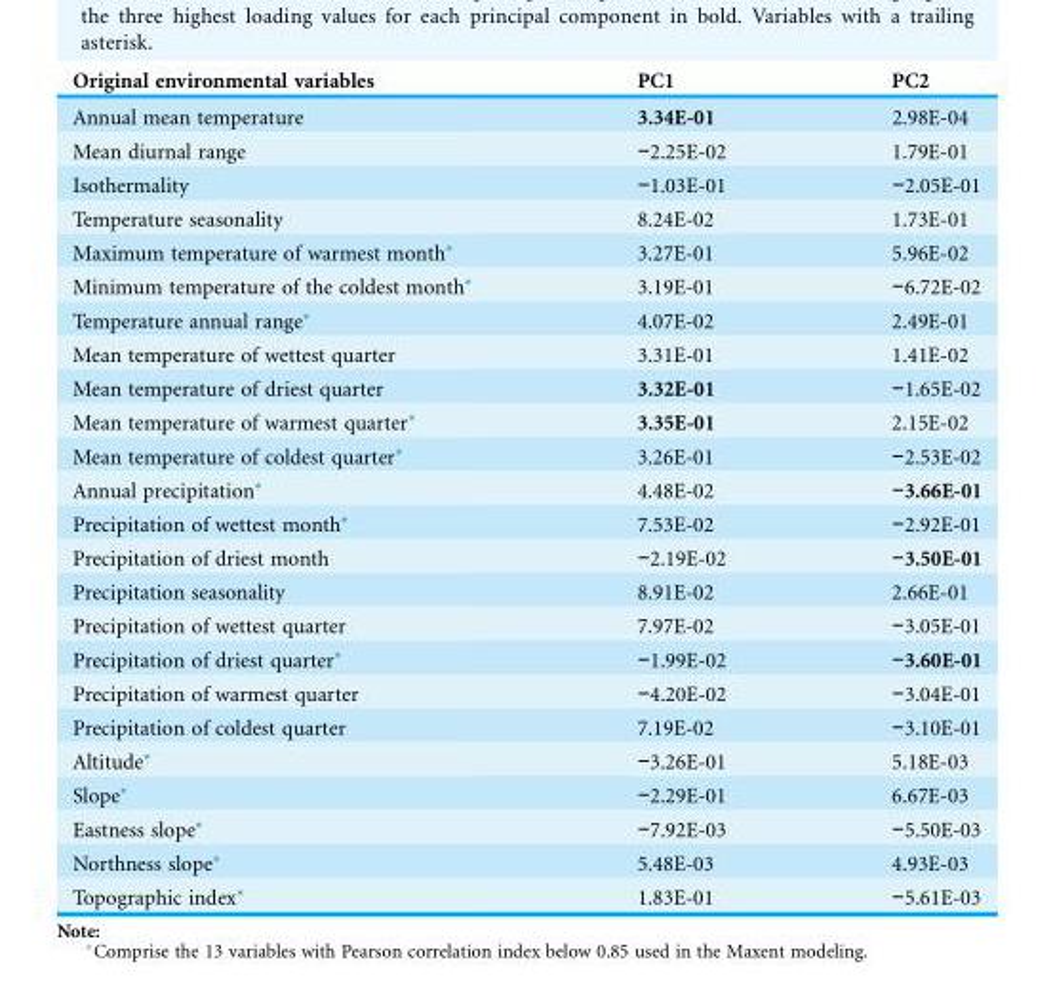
<table><thead><tr><td>Original environmental variables</td><td>PC1</td><td>PC2</td></tr></thead><tbody><tr><td>Annual mean temperature</td><td>3.34E-01</td><td>2.98E-04</td></tr><tr><td>Mean diurnal range</td><td>−2.25E-02</td><td>1.79E-01</td></tr><tr><td>Isothermality</td><td>−1.03E-01</td><td>−2.05E-01</td></tr><tr><td>Temperature seasonality</td><td>8.24E-02</td><td>1.73E-01</td></tr><tr><td>Maximum temperature of warmest month*</td><td>3.27E-01</td><td>5.96E-02</td></tr><tr><td>Minimum temperature of the coldest month*</td><td>3.19E-01</td><td>−6.72E-02</td></tr><tr><td>Temperature annual range*</td><td>4.07E-02</td><td>2.49E-01</td></tr><tr><td>Mean temperature of wettest quarter</td><td>3.31E-01</td><td>1.41E-02</td></tr><tr><td>Mean temperature of driest quarter</td><td>3.32E-01</td><td>−1.65E-02</td></tr><tr><td>Mean temperature of warmest quarter*</td><td>3.35E-01</td><td>2.15E-02</td></tr><tr><td>Mean temperature of coldest quarter*</td><td>3.26E-01</td><td>−2.53E-02</td></tr><tr><td>Annual precipitation*</td><td>4.48E-02</td><td>−3.66E-01</td></tr><tr><td>Precipitation of wettest month*</td><td>7.53E-02</td><td>−2.92E-01</td></tr><tr><td>Precipitation of driest month</td><td>−2.19E-02</td><td>−3.50E-01</td></tr><tr><td>Precipitation seasonality</td><td>8.91E-02</td><td>2.66E-01</td></tr><tr><td>Precipitation of wettest quarter</td><td>7.97E-02</td><td>−3.05E-01</td></tr><tr><td>Precipitation of driest quarter*</td><td>−1.99E-02</td><td>−3.60E-01</td></tr><tr><td>Precipitation of warmest quarter</td><td>−4.20E-02</td><td>−3.04E-01</td></tr><tr><td>Precipitation of coldest quarter</td><td>7.19E-02</td><td>−3.10E-01</td></tr><tr><td>Altitude*</td><td>−3.26E-01</td><td>5.18E-03</td></tr><tr><td>Slope*</td><td>−2.29E-01</td><td>6.67E-03</td></tr><tr><td>Eastness slope*</td><td>−7.92E-03</td><td>−5.50E-03</td></tr><tr><td>Northness slope*</td><td>5.48E-03</td><td>4.93E-03</td></tr><tr><td>Topographic index*</td><td>1.83E-01</td><td>−5.61E-03</td></tr></tbody></table>